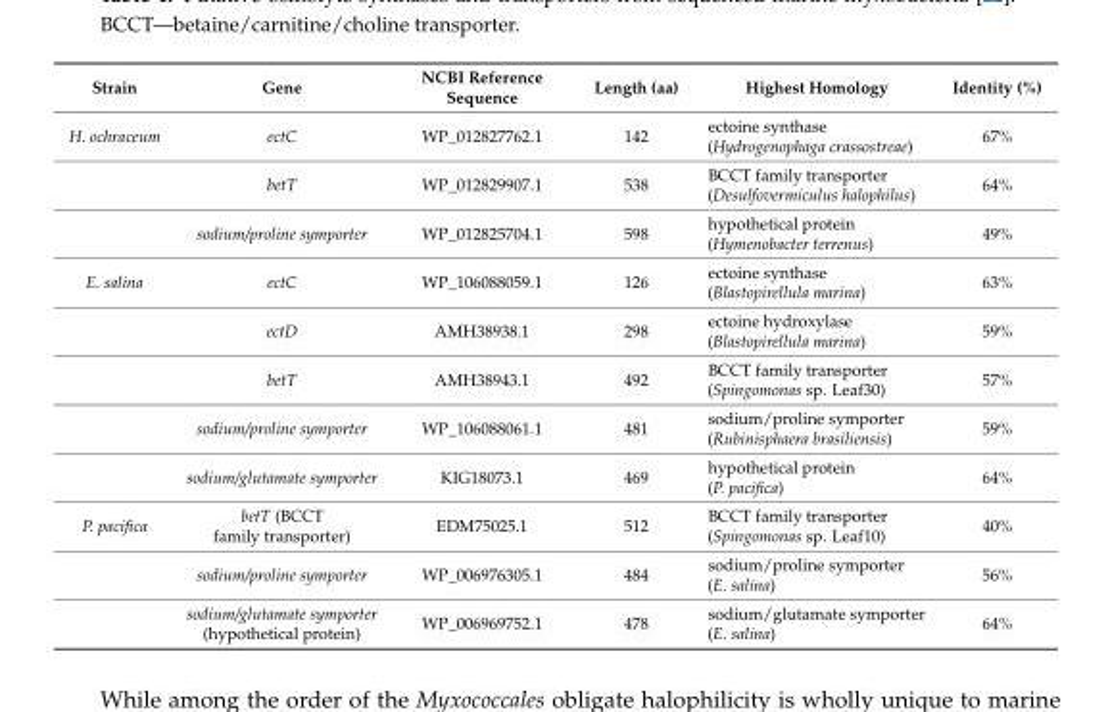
<table><thead><tr><td>Strain</td><td>Gene</td><td>NCBI Reference Sequence</td><td>Length (aa)</td><td>Highest Homology</td><td>Identity (%)</td></tr></thead><tbody><tr><td rowspan="3">H. ochraceum</td><td>ectC</td><td>WP_012827762.1</td><td>142</td><td>ectoine synthase (Hydrogenophaga crassostreae)</td><td>67%</td></tr><tr><td>betT</td><td>WP_012829907.1</td><td>538</td><td>BCCT family transporter (Desulfovermiculus halophilus)</td><td>64%</td></tr><tr><td>sodium/proline symporter</td><td>WP_012825704.1</td><td>598</td><td>hypothetical protein (Hymenobacter terrenus)</td><td>49%</td></tr><tr><td rowspan="5">E. salina</td><td>ectC</td><td>WP_106088059.1</td><td>126</td><td>ectoine synthase (Blastopirellula marina)</td><td>63%</td></tr><tr><td>ectD</td><td>AMH38938.1</td><td>298</td><td>ectoine hydroxylase (Blastopirellula marina)</td><td>59%</td></tr><tr><td>betT</td><td>AMH38943.1</td><td>492</td><td>BCCT family transporter (Spingomonas sp. Leaf30)</td><td>57%</td></tr><tr><td>sodium/proline symporter</td><td>WP_106088061.1</td><td>481</td><td>sodium/proline symporter (Rubinisphaera brasiliensis)</td><td>59%</td></tr><tr><td>sodium/glutamate symporter</td><td>KIG18073.1</td><td>469</td><td>hypothetical protein (P. pacifica)</td><td>64%</td></tr><tr><td rowspan="3">P. pacifica</td><td>betT (BCCT family transporter)</td><td>EDM75025.1</td><td>512</td><td>BCCT family transporter (Spingomonas sp. Leaf10)</td><td>40%</td></tr><tr><td>sodium/proline symporter</td><td>WP_006976305.1</td><td>484</td><td>sodium/proline symporter (E. salina)</td><td>56%</td></tr><tr><td>sodium/glutamate symporter (hypothetical protein)</td><td>WP_006969752.1</td><td>478</td><td>sodium/glutamate symporter (E. salina)</td><td>64%</td></tr></tbody></table>